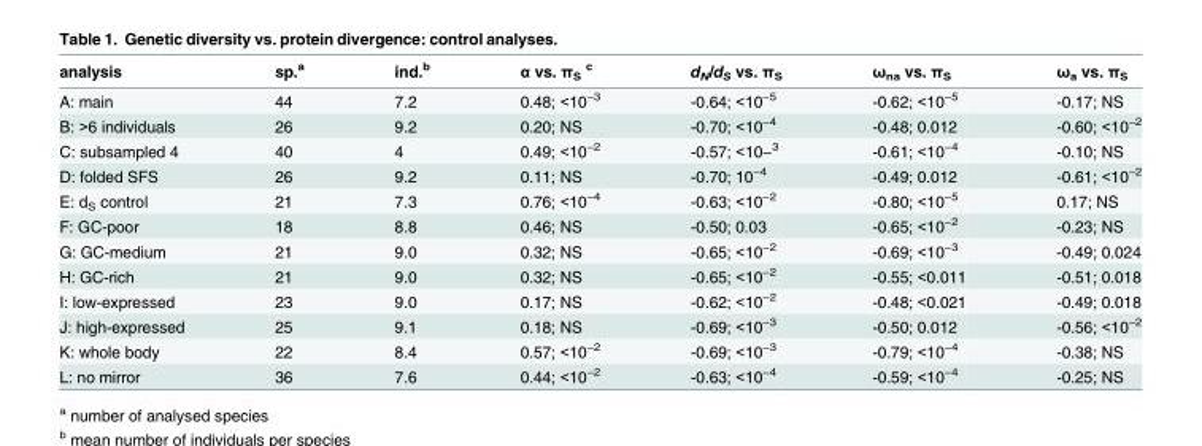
<table><thead><tr><td>analysis</td><td>sp.<sup>a</sup></td><td>ind.<sup>b</sup></td><td>α vs. π<sub>S</sub> <sup>c</sup></td><td>d<sub>N</sub>/d<sub>S</sub> vs. π<sub>S</sub></td><td>ω<sub>na</sub> vs. π<sub>S</sub></td><td>ω<sub>a</sub> vs. π<sub>S</sub></td></tr></thead><tbody><tr><td>A: main</td><td>44</td><td>7.2</td><td>0.48; &lt;10<sup>−3</sup></td><td>-0.64; &lt;10<sup>−5</sup></td><td>-0.62; &lt;10<sup>−5</sup></td><td>-0.17; NS</td></tr><tr><td>B: &gt;6 individuals</td><td>26</td><td>9.2</td><td>0.20; NS</td><td>-0.70; &lt;10<sup>−4</sup></td><td>-0.48; 0.012</td><td>-0.60; &lt;10<sup>−2</sup></td></tr><tr><td>C: subsampled 4</td><td>40</td><td>4</td><td>0.49; &lt;10<sup>−2</sup></td><td>-0.57; &lt;10−<sup>3</sup></td><td>-0.61; &lt;10<sup>−4</sup></td><td>-0.10; NS</td></tr><tr><td>D: folded SFS</td><td>26</td><td>9.2</td><td>0.11; NS</td><td>-0.70; 10<sup>−4</sup></td><td>-0.49; 0.012</td><td>-0.61; &lt;10<sup>−2</sup></td></tr><tr><td>E: d<sub>S</sub> control</td><td>21</td><td>7.3</td><td>0.76; &lt;10<sup>−4</sup></td><td>-0.63; &lt;10<sup>−2</sup></td><td>-0.80; &lt;10<sup>−5</sup></td><td>0.17; NS</td></tr><tr><td>F: GC-poor</td><td>18</td><td>8.8</td><td>0.46; NS</td><td>-0.50; 0.03</td><td>-0.65; &lt;10<sup>−2</sup></td><td>-0.23; NS</td></tr><tr><td>G: GC-medium</td><td>21</td><td>9.0</td><td>0.32; NS</td><td>-0.65; &lt;10<sup>−2</sup></td><td>-0.69; &lt;10<sup>−3</sup></td><td>-0.49; 0.024</td></tr><tr><td>H: GC-rich</td><td>21</td><td>9.0</td><td>0.32; NS</td><td>-0.65; &lt;10<sup>−2</sup></td><td>-0.55; &lt;0.011</td><td>-0.51; 0.018</td></tr><tr><td>I: low-expressed</td><td>23</td><td>9.0</td><td>0.17; NS</td><td>-0.62; &lt;10<sup>−2</sup></td><td>-0.48; &lt;0.021</td><td>-0.49; 0.018</td></tr><tr><td>J: high-expressed</td><td>25</td><td>9.1</td><td>0.18; NS</td><td>-0.69; &lt;10<sup>−3</sup></td><td>-0.50; 0.012</td><td>-0.56; &lt;10<sup>−2</sup></td></tr><tr><td>K: whole body</td><td>22</td><td>8.4</td><td>0.57; &lt;10<sup>−2</sup></td><td>-0.69; &lt;10<sup>−3</sup></td><td>-0.79; &lt;10<sup>−4</sup></td><td>-0.38; NS</td></tr><tr><td>L: no mirror</td><td>36</td><td>7.6</td><td>0.44; &lt;10<sup>−2</sup></td><td>-0.63; &lt;10<sup>−4</sup></td><td>-0.59; &lt;10<sup>−4</sup></td><td>-0.25; NS</td></tr></tbody></table>